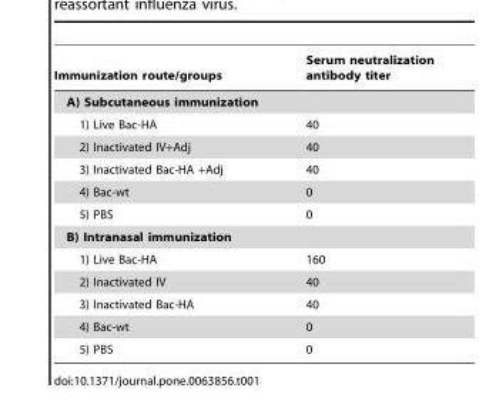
<table><thead><tr><td>Immunization route/groups</td><td>Serum neutralization antibody titer</td></tr></thead><tbody><tr><td colspan="2">A) Subcutaneous immunization</td></tr><tr><td>1) Live Bac-HA</td><td>40</td></tr><tr><td>2) Inactivated IV+Adj</td><td>40</td></tr><tr><td>3) Inactivated Bac-HA +Adj</td><td>40</td></tr><tr><td>4) Bac-wt</td><td>0</td></tr><tr><td>5) PBS</td><td>0</td></tr><tr><td colspan="2">B) Intranasal immunization</td></tr><tr><td>1) Live Bac-HA</td><td>160</td></tr><tr><td>2) Inactivated IV</td><td>40</td></tr><tr><td>3) Inactivated Bac-HA</td><td>40</td></tr><tr><td>4) Bac-wt</td><td>0</td></tr><tr><td>5) PBS</td><td>0</td></tr></tbody></table>